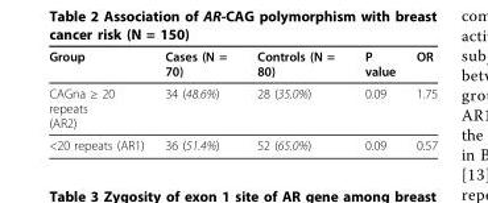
<table><thead><tr><td>Group</td><td>Cases (N = 70)</td><td>Controls (N = 80)</td><td>P value</td><td>OR</td></tr></thead><tbody><tr><td>CAGna ≥ 20 repeats (AR2)</td><td>34 (48.6%)</td><td>28 (35.0%)</td><td>0.09</td><td>1.75</td></tr><tr><td>&lt;20 repeats (AR1)</td><td>36 (51.4%)</td><td>52 (65.0%)</td><td>0.09</td><td>0.57</td></tr></tbody></table>